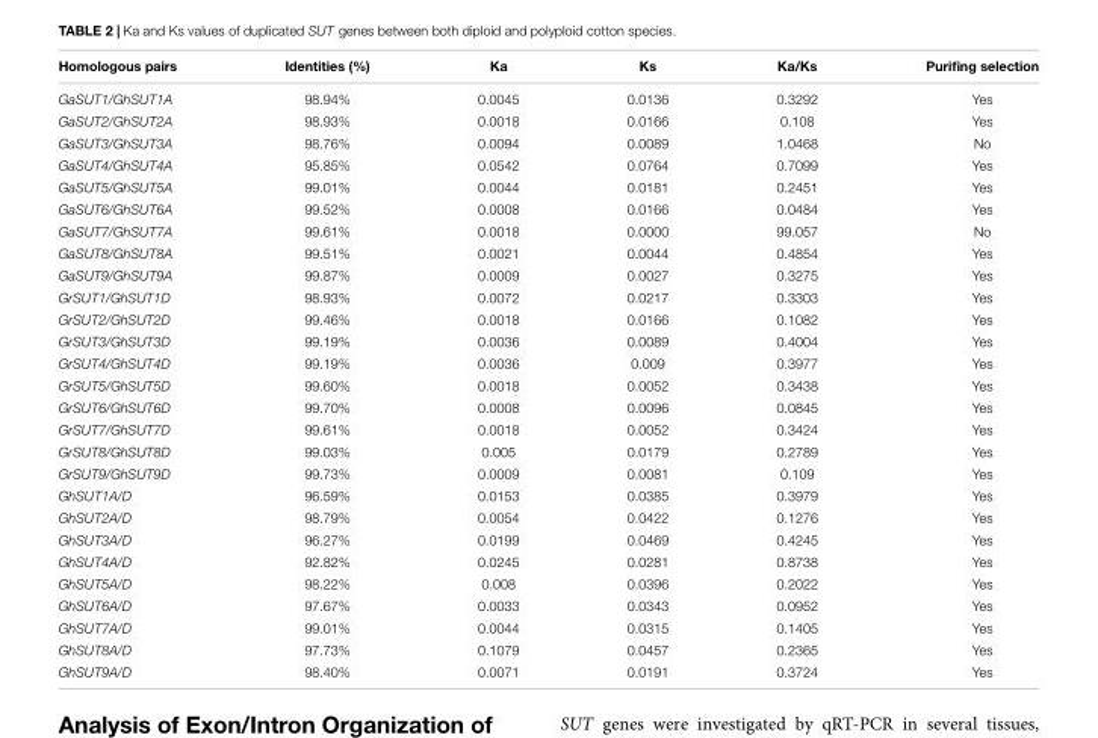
<table><thead><tr><td>Homologous pairs</td><td>Identities (%)</td><td>Ka</td><td>Ks</td><td>Ka/Ks</td><td>Purifing selection</td></tr></thead><tbody><tr><td>GaSUT1/GhSUT1A</td><td>98.94%</td><td>0.0045</td><td>0.0136</td><td>0.3292</td><td>Yes</td></tr><tr><td>GaSUT2/GhSUT2A</td><td>98.93%</td><td>0.0018</td><td>0.0166</td><td>0.108</td><td>Yes</td></tr><tr><td>GaSUT3/GhSUT3A</td><td>98.76%</td><td>0.0094</td><td>0.0089</td><td>1.0468</td><td>No</td></tr><tr><td>GaSUT4/GhSUT4A</td><td>95.85%</td><td>0.0542</td><td>0.0764</td><td>0.7099</td><td>Yes</td></tr><tr><td>GaSUT5/GhSUT5A</td><td>99.01%</td><td>0.0044</td><td>0.0181</td><td>0.2451</td><td>Yes</td></tr><tr><td>GaSUT6/GhSUT6A</td><td>99.52%</td><td>0.0008</td><td>0.0166</td><td>0.0484</td><td>Yes</td></tr><tr><td>GaSUT7/GhSUT7A</td><td>99.61%</td><td>0.0018</td><td>0.0000</td><td>99.057</td><td>No</td></tr><tr><td>GaSUT8/GhSUT8A</td><td>99.51%</td><td>0.0021</td><td>0.0044</td><td>0.4854</td><td>Yes</td></tr><tr><td>GaSUT9/GhSUT9A</td><td>99.87%</td><td>0.0009</td><td>0.0027</td><td>0.3275</td><td>Yes</td></tr><tr><td>GrSUT1/GhSUT1D</td><td>98.93%</td><td>0.0072</td><td>0.0217</td><td>0.3303</td><td>Yes</td></tr><tr><td>GrSUT2/GhSUT2D</td><td>99.46%</td><td>0.0018</td><td>0.0166</td><td>0.1082</td><td>Yes</td></tr><tr><td>GrSUT3/GhSUT3D</td><td>99.19%</td><td>0.0036</td><td>0.0089</td><td>0.4004</td><td>Yes</td></tr><tr><td>GrSUT4/GhSUT4D</td><td>99.19%</td><td>0.0036</td><td>0.009</td><td>0.3977</td><td>Yes</td></tr><tr><td>GrSUT5/GhSUT5D</td><td>99.60%</td><td>0.0018</td><td>0.0052</td><td>0.3438</td><td>Yes</td></tr><tr><td>GrSUT6/GhSUT6D</td><td>99.70%</td><td>0.0008</td><td>0.0096</td><td>0.0845</td><td>Yes</td></tr><tr><td>GrSUT7/GhSUT7D</td><td>99.61%</td><td>0.0018</td><td>0.0052</td><td>0.3424</td><td>Yes</td></tr><tr><td>GrSUT8/GhSUT8D</td><td>99.03%</td><td>0.005</td><td>0.0179</td><td>0.2789</td><td>Yes</td></tr><tr><td>GrSUT9/GhSUT9D</td><td>99.73%</td><td>0.0009</td><td>0.0081</td><td>0.109</td><td>Yes</td></tr><tr><td>GhSUT1A/D</td><td>96.59%</td><td>0.0153</td><td>0.0385</td><td>0.3979</td><td>Yes</td></tr><tr><td>GhSUT2A/D</td><td>98.79%</td><td>0.0054</td><td>0.0422</td><td>0.1276</td><td>Yes</td></tr><tr><td>GhSUT3A/D</td><td>96.27%</td><td>0.0199</td><td>0.0469</td><td>0.4245</td><td>Yes</td></tr><tr><td>GhSUT4A/D</td><td>92.82%</td><td>0.0245</td><td>0.0281</td><td>0.8738</td><td>Yes</td></tr><tr><td>GhSUT5A/D</td><td>98.22%</td><td>0.008</td><td>0.0396</td><td>0.2022</td><td>Yes</td></tr><tr><td>GhSUT6A/D</td><td>97.67%</td><td>0.0033</td><td>0.0343</td><td>0.0952</td><td>Yes</td></tr><tr><td>GhSUT7A/D</td><td>99.01%</td><td>0.0044</td><td>0.0315</td><td>0.1405</td><td>Yes</td></tr><tr><td>GhSUT8A/D</td><td>97.73%</td><td>0.1079</td><td>0.0457</td><td>0.2365</td><td>Yes</td></tr><tr><td>GhSUT9A/D</td><td>98.40%</td><td>0.0071</td><td>0.0191</td><td>0.3724</td><td>Yes</td></tr></tbody></table>